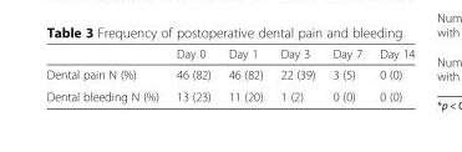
<table><thead><tr><td></td><td>Day 0</td><td>Day 1</td><td>Day 3</td><td>Day 7</td><td>Day 14</td></tr></thead><tbody><tr><td>Dental pain N (%)</td><td>46 (82)</td><td>46 (82)</td><td>22 (39)</td><td>3 (5)</td><td>0 (0)</td></tr><tr><td>Dental bleeding N (%)</td><td>13 (23)</td><td>11 (20)</td><td>1 (2)</td><td>0 (0)</td><td>0 (0)</td></tr></tbody></table>